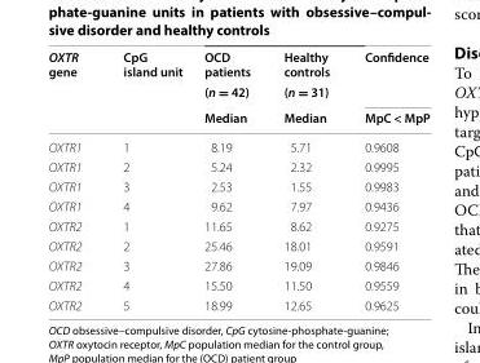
<table><thead><tr><td rowspan="3">OXTR gene</td><td rowspan="3">CpG island unit</td><td rowspan="3">OCD patients (n = 42) Median</td><td rowspan="3">Healthy controls (n = 31) Median</td><td rowspan="3">Confidence MpC &lt; MpP</td></tr><tr></tr><tr></tr></thead><tbody><tr><td>OXTR1</td><td>1</td><td>8.19</td><td>5.71</td><td>0.9608</td></tr><tr><td>OXTR1</td><td>2</td><td>5.24</td><td>2.32</td><td>0.9995</td></tr><tr><td>OXTR1</td><td>3</td><td>2.53</td><td>1.55</td><td>0.9983</td></tr><tr><td>OXTR1</td><td>4</td><td>9.62</td><td>7.97</td><td>0.9436</td></tr><tr><td>OXTR2</td><td>1</td><td>11.65</td><td>8.62</td><td>0.9275</td></tr><tr><td>OXTR2</td><td>2</td><td>25.46</td><td>18.01</td><td>0.9591</td></tr><tr><td>OXTR2</td><td>3</td><td>27.86</td><td>19.09</td><td>0.9846</td></tr><tr><td>OXTR2</td><td>4</td><td>15.50</td><td>11.50</td><td>0.9559</td></tr><tr><td>OXTR2</td><td>5</td><td>18.99</td><td>12.65</td><td>0.9625</td></tr></tbody></table>